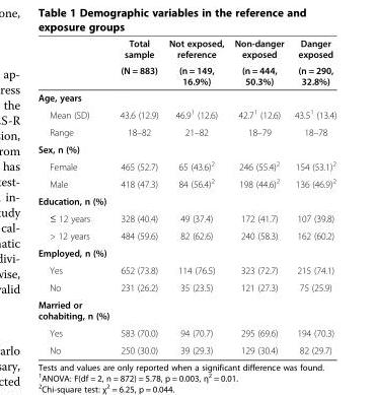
<table><thead><tr><td rowspan="2"></td><td rowspan="2">Total sample (N = 883)</td><td rowspan="2">Not exposed, reference (n = 149, 16.9%)</td><td rowspan="2">Non-danger exposed (n = 444, 50.3%)</td><td rowspan="2">Danger exposed (n = 290, 32.8%)</td></tr><tr></tr></thead><tbody><tr><td colspan="5">Age, years</td></tr><tr><td>Mean (SD)</td><td>43.6 (12.9)</td><td>46.9<sup>1</sup> (12.6)</td><td>42.7<sup>1</sup> (12.6)</td><td>43.5<sup>1</sup> (13.4)</td></tr><tr><td>Range</td><td>18–82</td><td>21–82</td><td>18–79</td><td>18–78</td></tr><tr><td colspan="5">Sex, n (%)</td></tr><tr><td>Female</td><td>465 (52.7)</td><td>65 (43.6)<sup>2</sup></td><td>246 (55.4)<sup>2</sup></td><td>154 (53.1)<sup>2</sup></td></tr><tr><td>Male</td><td>418 (47.3)</td><td>84 (56.4)<sup>2</sup></td><td>198 (44.6)<sup>2</sup></td><td>136 (46.9)<sup>2</sup></td></tr><tr><td colspan="5">Education, n (%)</td></tr><tr><td>≤ 12 years</td><td>328 (40.4)</td><td>49 (37.4)</td><td>172 (41.7)</td><td>107 (39.8)</td></tr><tr><td>&gt; 12 years</td><td>484 (59.6)</td><td>82 (62.6)</td><td>240 (58.3)</td><td>162 (60.2)</td></tr><tr><td colspan="5">Employed, n (%)</td></tr><tr><td>Yes</td><td>652 (73.8)</td><td>114 (76.5)</td><td>323 (72.7)</td><td>215 (74.1)</td></tr><tr><td>No</td><td>231 (26.2)</td><td>35 (23.5)</td><td>121 (27.3)</td><td>75 (25.9)</td></tr><tr><td colspan="5">Married or cohabiting, n (%)</td></tr><tr><td>Yes</td><td>583 (70.0)</td><td>94 (70.7)</td><td>295 (69.6)</td><td>194 (70.3)</td></tr><tr><td>No</td><td>250 (30.0)</td><td>39 (29.3)</td><td>129 (30.4)</td><td>82 (29.7)</td></tr></tbody></table>